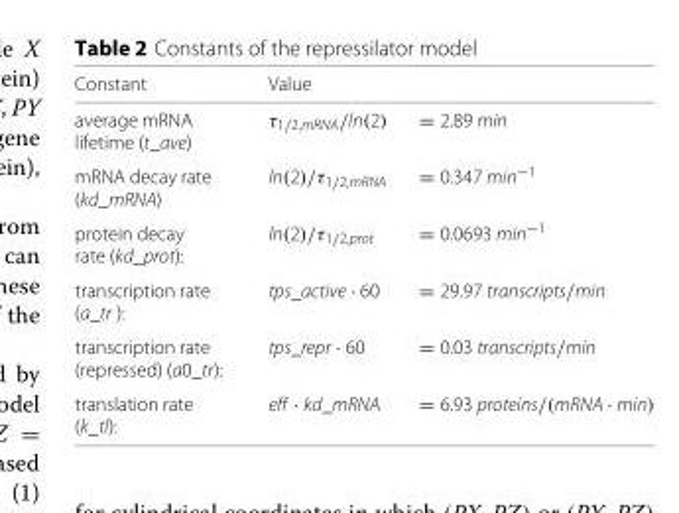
<table><thead><tr><td>Constant</td><td>Value</td><td></td></tr></thead><tbody><tr><td>average mRNA lifetime (t_ave)</td><td>τ<sub>1/2,mRNA</sub>/ln(2)</td><td>= 2.89 min</td></tr><tr><td>mRNA decay rate (kd_mRNA)</td><td>ln(2)/τ<sub>1/2,mRNA</sub></td><td>= 0.347 min<sup>−1</sup></td></tr><tr><td>protein decay rate (kd_prot):</td><td>ln(2)/τ<sub>1/2,prot</sub></td><td>= 0.0693 min<sup>−1</sup></td></tr><tr><td>transcription rate (a_tr ):</td><td>tps_active · 60</td><td>= 29.97 transcripts/min</td></tr><tr><td>transcription rate (repressed) (a0_tr):</td><td>tps_repr · 60</td><td>= 0.03 transcripts/min</td></tr><tr><td>translation rate (k_tl):</td><td>eff · kd_mRNA</td><td>= 6.93 proteins/(mRNA</td></tr></tbody></table>